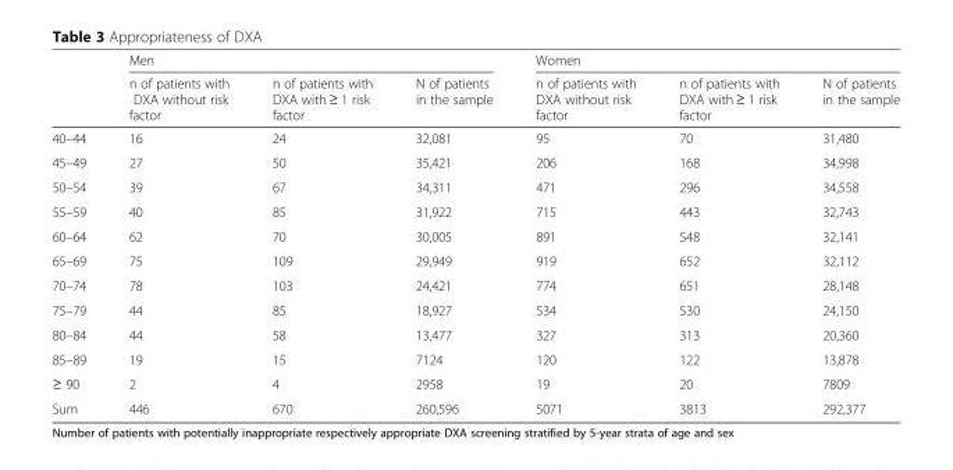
<table><thead><tr><td rowspan="2"></td><td colspan="3">Men</td><td colspan="3">Women</td></tr><tr><td>n of patients with DXA without risk factor</td><td>n of patients with DXA with ≥ 1 risk factor</td><td>N of patients in the sample</td><td>n of patients with DXA without risk factor</td><td>n of patients with DXA with ≥ 1 risk factor</td><td>N of patients in the sample</td></tr></thead><tbody><tr><td>40–44</td><td>16</td><td>24</td><td>32,081</td><td>95</td><td>70</td><td>31,480</td></tr><tr><td>45–49</td><td>27</td><td>50</td><td>35,421</td><td>206</td><td>168</td><td>34,998</td></tr><tr><td>50–54</td><td>39</td><td>67</td><td>34,311</td><td>471</td><td>296</td><td>34,558</td></tr><tr><td>55–59</td><td>40</td><td>85</td><td>31,922</td><td>715</td><td>443</td><td>32,743</td></tr><tr><td>60–64</td><td>62</td><td>70</td><td>30,005</td><td>891</td><td>548</td><td>32,141</td></tr><tr><td>65–69</td><td>75</td><td>109</td><td>29,949</td><td>919</td><td>652</td><td>32,112</td></tr><tr><td>70–74</td><td>78</td><td>103</td><td>24,421</td><td>774</td><td>651</td><td>28,148</td></tr><tr><td>75–79</td><td>44</td><td>85</td><td>18,927</td><td>534</td><td>530</td><td>24,150</td></tr><tr><td>80–84</td><td>44</td><td>58</td><td>13,477</td><td>327</td><td>313</td><td>20,360</td></tr><tr><td>85–89</td><td>19</td><td>15</td><td>7124</td><td>120</td><td>122</td><td>13,878</td></tr><tr><td>≥ 90</td><td>2</td><td>4</td><td>2958</td><td>19</td><td>20</td><td>7809</td></tr><tr><td>Sum</td><td>446</td><td>670</td><td>260,596</td><td>5071</td><td>3813</td><td>292,377</td></tr></tbody></table>